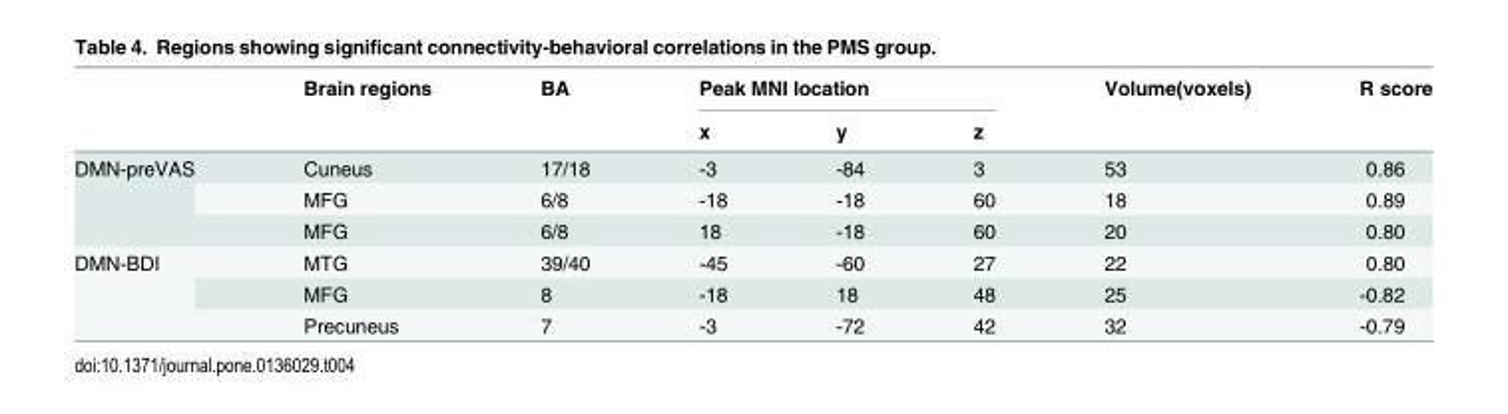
<table><thead><tr><td rowspan="2"></td><td rowspan="2">Brain regions</td><td rowspan="2">BA</td><td colspan="3">Peak MNI location</td><td rowspan="2">Volume(voxels)</td><td rowspan="2">R score</td></tr><tr><td>x</td><td>y</td><td>z</td></tr></thead><tbody><tr><td rowspan="3">DMN-preVAS</td><td>Cuneus</td><td>17/18</td><td>-3</td><td>-84</td><td>3</td><td>53</td><td>0.86</td></tr><tr><td>MFG</td><td>6/8</td><td>-18</td><td>-18</td><td>60</td><td>18</td><td>0.89</td></tr><tr><td>MFG</td><td>6/8</td><td>18</td><td>-18</td><td>60</td><td>20</td><td>0.80</td></tr><tr><td rowspan="3">DMN-BDI</td><td>MTG</td><td>39/40</td><td>-45</td><td>-60</td><td>27</td><td>22</td><td>0.80</td></tr><tr><td>MFG</td><td>8</td><td>-18</td><td>18</td><td>48</td><td>25</td><td>-0.82</td></tr><tr><td>Precuneus</td><td>7</td><td>-3</td><td>-72</td><td>42</td><td>32</td><td>-0.79</td></tr></tbody></table>